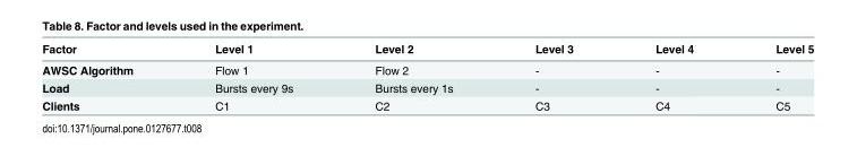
<table><thead><tr><td>Factor</td><td>Level 1</td><td>Level 2</td><td>Level 3</td><td>Level 4</td><td>Level 5</td></tr></thead><tbody><tr><td>AWSC Algorithm</td><td>Flow 1</td><td>Flow 2</td><td>-</td><td>-</td><td>-</td></tr><tr><td>Load</td><td>Bursts every 9s</td><td>Bursts every 1s</td><td>-</td><td>-</td><td>-</td></tr><tr><td>Clients</td><td>C1</td><td>C2</td><td>C3</td><td>C4</td><td>C5</td></tr></tbody></table>